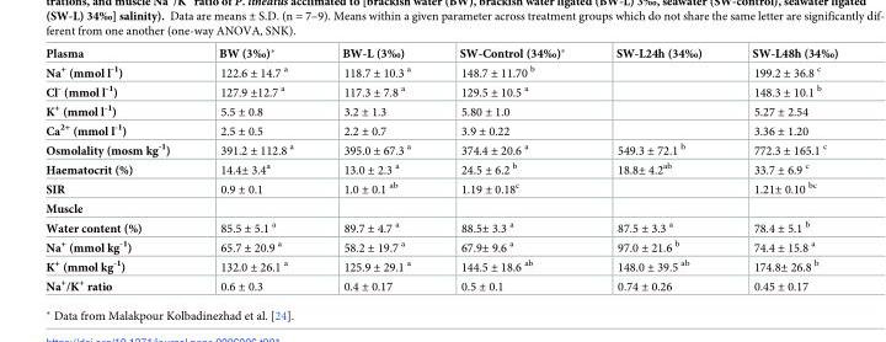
<table><thead><tr><td>Plasma</td><td>BW (3‰)*</td><td>BW-L (3‰)</td><td>SW-Control (34‰)*</td><td>SW-L24h (34‰)</td><td>SW-L48h (34‰)</td></tr></thead><tbody><tr><td>Na<sup>+</sup> (mmol l<sup>-1</sup>)</td><td>122.6 ± 14.7 <sup>a</sup></td><td>118.7 ± 10.3 <sup>a</sup></td><td>148.7 ± 11.70 <sup>b</sup></td><td></td><td>199.2 ± 36.8 <sup>c</sup></td></tr><tr><td>Cl<sup>-</sup> (mmol l<sup>-1</sup>)</td><td>127.9 ±12.7 <sup>a</sup></td><td>117.3 ± 7.8 <sup>a</sup></td><td>129.5 ± 10.5 <sup>a</sup></td><td></td><td>148.3 ± 10.1 <sup>b</sup></td></tr><tr><td>K<sup>+</sup> (mmol l<sup>-1</sup>)</td><td>5.5 ± 0.8</td><td>3.2 ± 1.3</td><td>5.80 ± 1.0</td><td></td><td>5.27 ± 2.54</td></tr><tr><td>Ca<sup>2+</sup> (mmol l<sup>-1</sup>)</td><td>2.5 ± 0.5</td><td>2.2 ± 0.7</td><td>3.9 ± 0.22</td><td></td><td>3.36 ± 1.20</td></tr><tr><td>Osmolality (mosm kg<sup>-1</sup>)</td><td>391.2 ± 112.8 <sup>a</sup></td><td>395.0 ± 67.3 <sup>a</sup></td><td>374.4 ± 20.6 <sup>a</sup></td><td>549.3 ± 72.1 <sup>b</sup></td><td>772.3 ± 165.1 <sup>c</sup></td></tr><tr><td>Haematocrit (%)</td><td>14.4± 3.4<sup>a</sup></td><td>13.0 ± 2.3 <sup>a</sup></td><td>24.5 ± 6.2 <sup>b</sup></td><td>18.8± 4.2<sup>ab</sup></td><td>33.7 ± 6.9 <sup>c</sup></td></tr><tr><td>SIR</td><td>0.9 ± 0.1</td><td>1.0 ± 0.1 <sup>ab</sup></td><td>1.19 ± 0.18<sup>c</sup></td><td></td><td>1.21± 0.10 <sup>bc</sup></td></tr><tr><td colspan="6">Muscle</td></tr><tr><td>Water content (%)</td><td>85.5 ± 5.1 <sup>a</sup></td><td>89.7 ± 4.7 <sup>a</sup></td><td>88.5± 3.3 <sup>a</sup></td><td>87.5 ± 3.3 <sup>a</sup></td><td>78.4 ± 5.1 <sup>b</sup></td></tr><tr><td>Na<sup>+</sup> (mmol kg<sup>-1</sup>)</td><td>65.7 ± 20.9 <sup>a</sup></td><td>58.2 ± 19.7 <sup>a</sup></td><td>67.9± 9.6 <sup>a</sup></td><td>97.0 ± 21.6 <sup>b</sup></td><td>74.4 ± 15.8 <sup>a</sup></td></tr><tr><td>K<sup>+</sup> (mmol kg<sup>-1</sup>)</td><td>132.0 ± 26.1 <sup>a</sup></td><td>125.9 ± 29.1 <sup>a</sup></td><td>144.5 ± 18.6 <sup>ab</sup></td><td>148.0 ± 39.5 <sup>ab</sup></td><td>174.8± 26.8 <sup>b</sup></td></tr><tr><td>Na<sup>+</sup>/K<sup>+</sup> ratio</td><td>0.6 ± 0.3</td><td>0.4 ± 0.17</td><td>0.5 ± 0.1</td><td>0.74 ± 0.26</td><td>0.45 ± 0.17</td></tr></tbody></table>